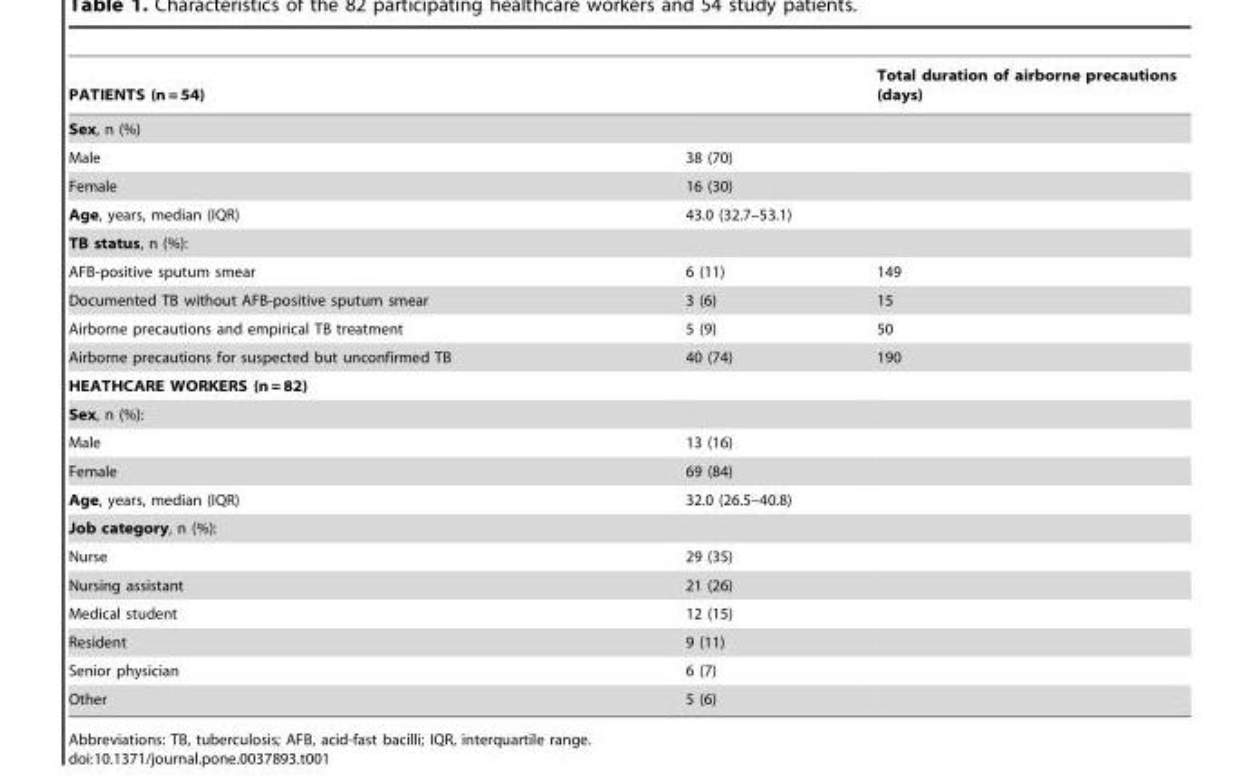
<table><thead><tr><td>PATIENTS (n = 54)</td><td></td><td>Total duration of airborne precautions (days)</td></tr></thead><tbody><tr><td colspan="3">Sex, n (%)</td></tr><tr><td>Male</td><td>38 (70)</td><td></td></tr><tr><td>Female</td><td>16 (30)</td><td></td></tr><tr><td>Age, years, median (IQR)</td><td>43.0 (32.7–53.1)</td><td></td></tr><tr><td colspan="3">TB status, n (%):</td></tr><tr><td>AFB-positive sputum smear</td><td>6 (11)</td><td>149</td></tr><tr><td>Documented TB without AFB-positive sputum smear</td><td>3 (6)</td><td>15</td></tr><tr><td>Airborne precautions and empirical TB treatment</td><td>5 (9)</td><td>50</td></tr><tr><td>Airborne precautions for suspected but unconfirmed TB</td><td>40 (74)</td><td>190</td></tr><tr><td colspan="3">HEATHCARE WORKERS (n = 82)</td></tr><tr><td colspan="3">Sex, n (%):</td></tr><tr><td>Male</td><td>13 (16)</td><td></td></tr><tr><td>Female</td><td>69 (84)</td><td></td></tr><tr><td>Age, years, median (IQR)</td><td>32.0 (26.5–40.8)</td><td></td></tr><tr><td colspan="3">Job category, n (%):</td></tr><tr><td>Nurse</td><td>29 (35)</td><td></td></tr><tr><td>Nursing assistant</td><td>21 (26)</td><td></td></tr><tr><td>Medical student</td><td>12 (15)</td><td></td></tr><tr><td>Resident</td><td>9 (11)</td><td></td></tr><tr><td>Senior physician</td><td>6 (7)</td><td></td></tr><tr><td>Other</td><td>5 (6)</td><td></td></tr></tbody></table>